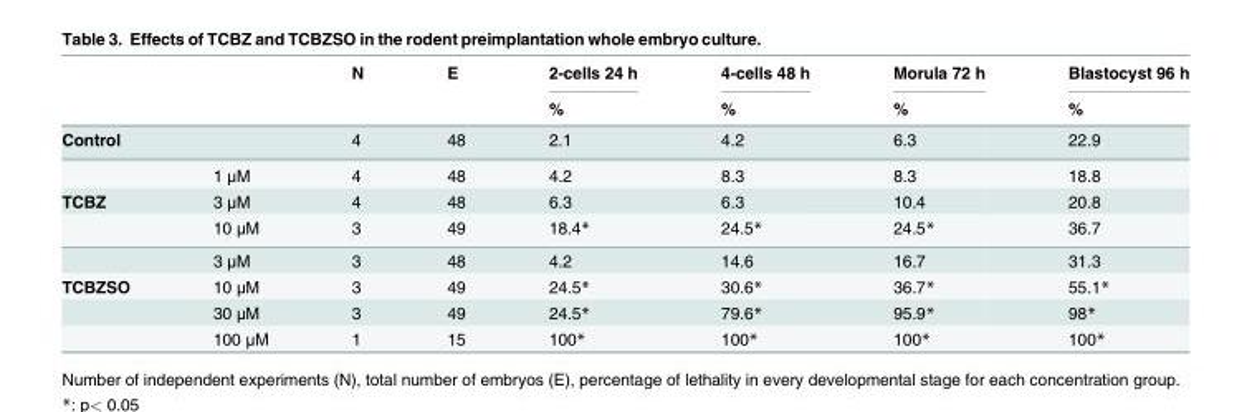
<table><thead><tr><td rowspan="2"></td><td rowspan="2"></td><td rowspan="2">N</td><td rowspan="2">E</td><td rowspan="2">2-cells 24 h %</td><td rowspan="2">4-cells 48 h %</td><td rowspan="2">Morula 72 h %</td><td rowspan="2">Blastocyst 96 h %</td></tr><tr></tr></thead><tbody><tr><td rowspan="2">Control</td><td></td><td>4</td><td>48</td><td>2.1</td><td>4.2</td><td>6.3</td><td>22.9</td></tr><tr><td>1 μM</td><td>4</td><td>48</td><td>4.2</td><td>8.3</td><td>8.3</td><td>18.8</td></tr><tr><td rowspan="3">TCBZ</td><td>3 μM</td><td>4</td><td>48</td><td>6.3</td><td>6.3</td><td>10.4</td><td>20.8</td></tr><tr><td>10 μM</td><td>3</td><td>49</td><td>18.4*</td><td>24.5*</td><td>24.5*</td><td>36.7</td></tr><tr><td>3 μM</td><td>3</td><td>48</td><td>4.2</td><td>14.6</td><td>16.7</td><td>31.3</td></tr><tr><td rowspan="3">TCBZSO</td><td>10 μM</td><td>3</td><td>49</td><td>24.5*</td><td>30.6*</td><td>36.7*</td><td>55.1*</td></tr><tr><td>30 μM</td><td>3</td><td>49</td><td>24.5*</td><td>79.6*</td><td>95.9*</td><td>98*</td></tr><tr><td>100 μM</td><td>1</td><td>15</td><td>100*</td><td>100*</td><td>100*</td><td>100*</td></tr></tbody></table>